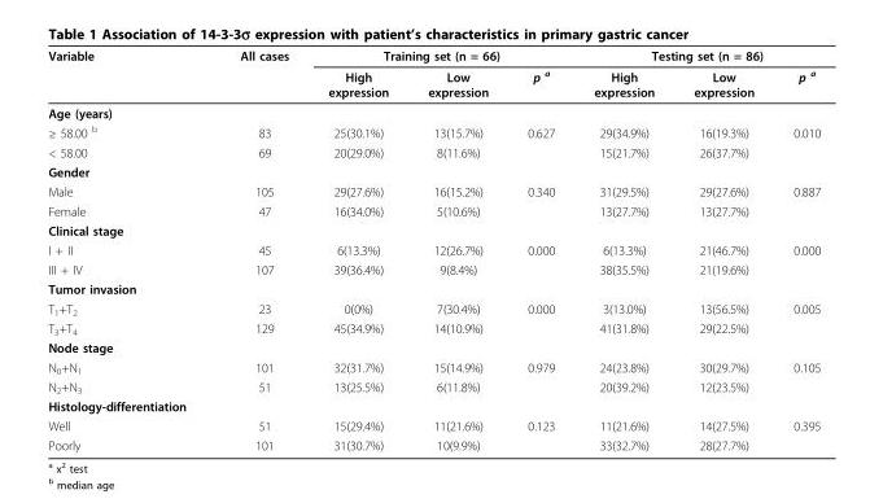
<table><thead><tr><td rowspan="2">Variable</td><td rowspan="2">All cases</td><td colspan="3">Training set (n = 66)</td><td colspan="3">Testing set (n = 86)</td></tr><tr><td>High expression</td><td>Low expression</td><td>p <sup>a</sup></td><td>High expression</td><td>Low expression</td><td>p <sup>a</sup></td></tr></thead><tbody><tr><td colspan="8">Age (years)</td></tr><tr><td>≥ 58.00 <sup>b</sup></td><td>83</td><td>25(30.1%)</td><td>13(15.7%)</td><td>0.627</td><td>29(34.9%)</td><td>16(19.3%)</td><td>0.010</td></tr><tr><td>&lt; 58.00</td><td>69</td><td>20(29.0%)</td><td>8(11.6%)</td><td></td><td>15(21.7%)</td><td>26(37.7%)</td><td></td></tr><tr><td colspan="8">Gender</td></tr><tr><td>Male</td><td>105</td><td>29(27.6%)</td><td>16(15.2%)</td><td>0.340</td><td>31(29.5%)</td><td>29(27.6%)</td><td>0.887</td></tr><tr><td>Female</td><td>47</td><td>16(34.0%)</td><td>5(10.6%)</td><td></td><td>13(27.7%)</td><td>13(27.7%)</td><td></td></tr><tr><td colspan="8">Clinical stage</td></tr><tr><td>I + II</td><td>45</td><td>6(13.3%)</td><td>12(26.7%)</td><td>0.000</td><td>6(13.3%)</td><td>21(46.7%)</td><td>0.000</td></tr><tr><td>III + IV</td><td>107</td><td>39(36.4%)</td><td>9(8.4%)</td><td></td><td>38(35.5%)</td><td>21(19.6%)</td><td></td></tr><tr><td colspan="8">Tumor invasion</td></tr><tr><td>T<sub>1</sub>+T<sub>2</sub></td><td>23</td><td>0(0%)</td><td>7(30.4%)</td><td>0.000</td><td>3(13.0%)</td><td>13(56.5%)</td><td>0.005</td></tr><tr><td>T<sub>3</sub>+T<sub>4</sub></td><td>129</td><td>45(34.9%)</td><td>14(10.9%)</td><td></td><td>41(31.8%)</td><td>29(22.5%)</td><td></td></tr><tr><td colspan="8">Node stage</td></tr><tr><td>N<sub>0</sub>+N<sub>1</sub></td><td>101</td><td>32(31.7%)</td><td>15(14.9%)</td><td>0.979</td><td>24(23.8%)</td><td>30(29.7%)</td><td>0.105</td></tr><tr><td>N<sub>2</sub>+N<sub>3</sub></td><td>51</td><td>13(25.5%)</td><td>6(11.8%)</td><td></td><td>20(39.2%)</td><td>12(23.5%)</td><td></td></tr><tr><td colspan="8">Histology-differentiation</td></tr><tr><td>Well</td><td>51</td><td>15(29.4%)</td><td>11(21.6%)</td><td>0.123</td><td>11(21.6%)</td><td>14(27.5%)</td><td>0.395</td></tr><tr><td>Poorly</td><td>101</td><td>31(30.7%)</td><td>10(9.9%)</td><td></td><td>33(32.7%)</td><td>28(27.7%)</td><td></td></tr></tbody></table>